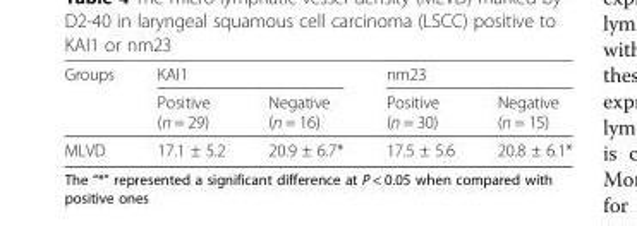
<table><thead><tr><td rowspan="2">Groups</td><td colspan="2">KAI1</td><td colspan="2">nm23</td></tr><tr><td>Positive (n = 29)</td><td>Negative (n = 16)</td><td>Positive (n = 30)</td><td>Negative (n = 15)</td></tr></thead><tbody><tr><td>MLVD</td><td>17.1 ± 5.2</td><td>20.9 ± 6.7*</td><td>17.5 ± 5.6</td><td>20.8 ± 6.1*</td></tr></tbody></table>